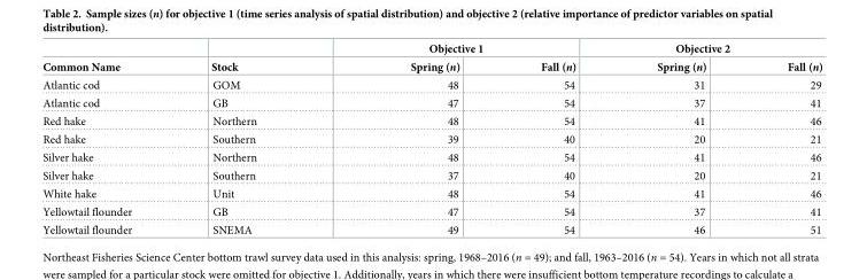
<table><thead><tr><td rowspan="2">Common Name</td><td rowspan="2">Stock</td><td colspan="2">Objective 1</td><td colspan="2">Objective 2</td></tr><tr><td>Spring (n)</td><td>Fall (n)</td><td>Spring (n)</td><td>Fall (n)</td></tr></thead><tbody><tr><td>Atlantic cod</td><td>GOM</td><td>48</td><td>54</td><td>31</td><td>29</td></tr><tr><td>Atlantic cod</td><td>GB</td><td>47</td><td>54</td><td>37</td><td>41</td></tr><tr><td>Red hake</td><td>Northern</td><td>48</td><td>54</td><td>41</td><td>46</td></tr><tr><td>Red hake</td><td>Southern</td><td>39</td><td>40</td><td>20</td><td>21</td></tr><tr><td>Silver hake</td><td>Northern</td><td>48</td><td>54</td><td>41</td><td>46</td></tr><tr><td>Silver hake</td><td>Southern</td><td>37</td><td>40</td><td>20</td><td>21</td></tr><tr><td>White hake</td><td>Unit</td><td>48</td><td>54</td><td>41</td><td>46</td></tr><tr><td>Yellowtail flounder</td><td>GB</td><td>47</td><td>54</td><td>37</td><td>41</td></tr><tr><td>Yellowtail flounder</td><td>SNEMA</td><td>49</td><td>54</td><td>46</td><td>51</td></tr></tbody></table>